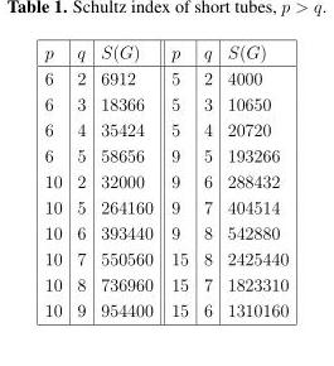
<table><thead><tr><td>p</td><td>q</td><td>S(G)</td><td>p</td><td>q</td><td>S(G)</td></tr></thead><tbody><tr><td>6</td><td>2</td><td>6912</td><td>5</td><td>2</td><td>4000</td></tr><tr><td>6</td><td>3</td><td>18366</td><td>5</td><td>3</td><td>10650</td></tr><tr><td>6</td><td>4</td><td>35424</td><td>5</td><td>4</td><td>20720</td></tr><tr><td>6</td><td>5</td><td>58656</td><td>9</td><td>5</td><td>193266</td></tr><tr><td>10</td><td>2</td><td>32000</td><td>9</td><td>6</td><td>288432</td></tr><tr><td>10</td><td>5</td><td>264160</td><td>9</td><td>7</td><td>404514</td></tr><tr><td>10</td><td>6</td><td>393440</td><td>9</td><td>8</td><td>542880</td></tr><tr><td>10</td><td>7</td><td>550560</td><td>15</td><td>8</td><td>2425440</td></tr><tr><td>10</td><td>8</td><td>736960</td><td>15</td><td>7</td><td>1823310</td></tr><tr><td>10</td><td>9</td><td>954400</td><td>15</td><td>6</td><td>1310160</td></tr></tbody></table>